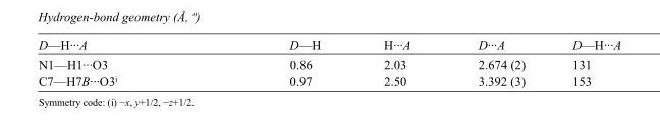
<table><tbody><tr><td>D—H···A</td><td>D—H</td><td>H···A</td><td>D···A</td><td>D—H···A</td></tr><tr><td>N1—H1···O3</td><td>0.86</td><td>2.03</td><td>2.674 (2)</td><td>131</td></tr><tr><td>C7—H7B···O3<sup>i</sup></td><td>0.97</td><td>2.50</td><td>3.392 (3)</td><td>153</td></tr></tbody></table>